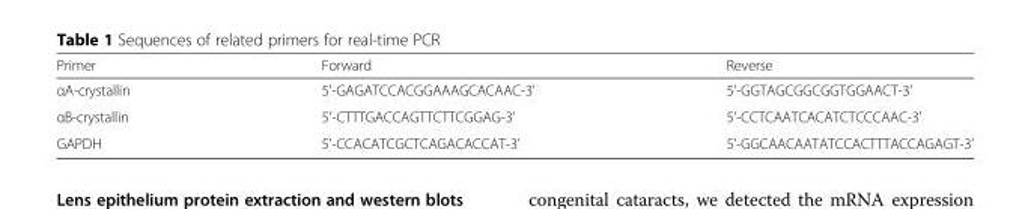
<table><thead><tr><td>Primer</td><td>Forward</td><td>Reverse</td></tr></thead><tbody><tr><td>αA-crystallin</td><td>5&#x27;-GAGATCCACGGAAAGCACAAC-3&#x27;</td><td>5&#x27;-GGTAGCGGCGGTGGAACT-3&#x27;</td></tr><tr><td>αB-crystallin</td><td>5&#x27;-CTTTGACCAGTTCTTCGGAG-3&#x27;</td><td>5&#x27;-CCTCAATCACATCTCCCAAC-3&#x27;</td></tr><tr><td>GAPDH</td><td>5&#x27;-CCACATCGCTCAGACACCAT-3&#x27;</td><td>5&#x27;-GGCAACAATATCCACTTTACCAGAGT-3&#x27;</td></tr></tbody></table>